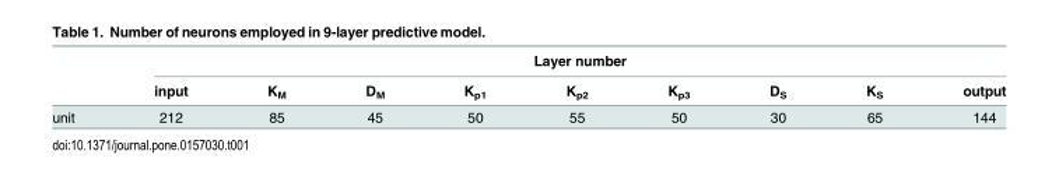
<table><thead><tr><td rowspan="2"></td><td colspan="9">Layer number</td></tr><tr><td>input</td><td>K<sub>M</sub></td><td>D<sub>M</sub></td><td>K<sub>p1</sub></td><td>K<sub>p2</sub></td><td>K<sub>p3</sub></td><td>D<sub>S</sub></td><td>K<sub>S</sub></td><td>output</td></tr></thead><tbody><tr><td>unit</td><td>212</td><td>85</td><td>45</td><td>50</td><td>55</td><td>50</td><td>30</td><td>65</td><td>144</td></tr></tbody></table>